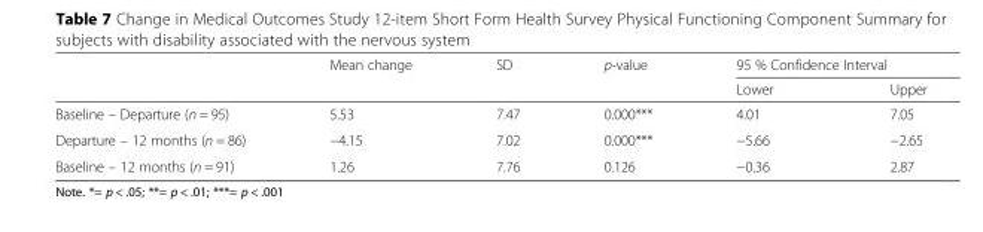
<table><thead><tr><td rowspan="2"></td><td rowspan="2">Mean change</td><td rowspan="2">SD</td><td rowspan="2">p-value</td><td colspan="2">95 % Confidence Interval</td></tr><tr><td>Lower</td><td>Upper</td></tr></thead><tbody><tr><td>Baseline – Departure (n = 95)</td><td>5.53</td><td>7.47</td><td>0.000***</td><td>4.01</td><td>7.05</td></tr><tr><td>Departure – 12 months (n = 86)</td><td>−4.15</td><td>7.02</td><td>0.000***</td><td>−5.66</td><td>−2.65</td></tr><tr><td>Baseline – 12 months (n = 91)</td><td>1.26</td><td>7.76</td><td>0.126</td><td>−0.36</td><td>2.87</td></tr></tbody></table>